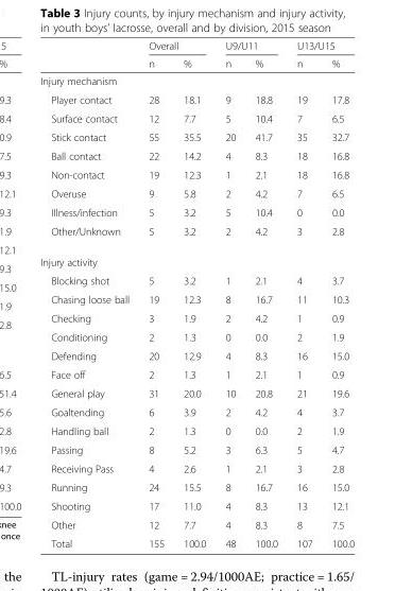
<table><thead><tr><td rowspan="2"></td><td colspan="2">Overall</td><td colspan="2">U9/U11</td><td colspan="2">U13/U15</td></tr><tr><td>n</td><td>%</td><td>n</td><td>%</td><td>n</td><td>%</td></tr></thead><tbody><tr><td colspan="7">Injury mechanism</td></tr><tr><td>Player contact</td><td>28</td><td>18.1</td><td>9</td><td>18.8</td><td>19</td><td>17.8</td></tr><tr><td>Surface contact</td><td>12</td><td>7.7</td><td>5</td><td>10.4</td><td>7</td><td>6.5</td></tr><tr><td>Stick contact</td><td>55</td><td>35.5</td><td>20</td><td>41.7</td><td>35</td><td>32.7</td></tr><tr><td>Ball contact</td><td>22</td><td>14.2</td><td>4</td><td>8.3</td><td>18</td><td>16.8</td></tr><tr><td>Non-contact</td><td>19</td><td>12.3</td><td>1</td><td>2.1</td><td>18</td><td>16.8</td></tr><tr><td>Overuse</td><td>9</td><td>5.8</td><td>2</td><td>4.2</td><td>7</td><td>6.5</td></tr><tr><td>Illness/infection</td><td>5</td><td>3.2</td><td>5</td><td>10.4</td><td>0</td><td>0.0</td></tr><tr><td>Other/Unknown</td><td>5</td><td>3.2</td><td>2</td><td>4.2</td><td>3</td><td>2.8</td></tr><tr><td colspan="7">Injury activity</td></tr><tr><td>Blocking shot</td><td>5</td><td>3.2</td><td>1</td><td>2.1</td><td>4</td><td>3.7</td></tr><tr><td>Chasing loose ball</td><td>19</td><td>12.3</td><td>8</td><td>16.7</td><td>11</td><td>10.3</td></tr><tr><td>Checking</td><td>3</td><td>1.9</td><td>2</td><td>4.2</td><td>1</td><td>0.9</td></tr><tr><td>Conditioning</td><td>2</td><td>1.3</td><td>0</td><td>0.0</td><td>2</td><td>1.9</td></tr><tr><td>Defending</td><td>20</td><td>12.9</td><td>4</td><td>8.3</td><td>16</td><td>15.0</td></tr><tr><td>Face off</td><td>2</td><td>1.3</td><td>1</td><td>2.1</td><td>1</td><td>0.9</td></tr><tr><td>General play</td><td>31</td><td>20.0</td><td>10</td><td>20.8</td><td>21</td><td>19.6</td></tr><tr><td>Goaltending</td><td>6</td><td>3.9</td><td>2</td><td>4.2</td><td>4</td><td>3.7</td></tr><tr><td>Handling ball</td><td>2</td><td>1.3</td><td>0</td><td>0.0</td><td>2</td><td>1.9</td></tr><tr><td>Passing</td><td>8</td><td>5.2</td><td>3</td><td>6.3</td><td>5</td><td>4.7</td></tr><tr><td>Receiving Pass</td><td>4</td><td>2.6</td><td>1</td><td>2.1</td><td>3</td><td>2.8</td></tr><tr><td>Running</td><td>24</td><td>15.5</td><td>8</td><td>16.7</td><td>16</td><td>15.0</td></tr><tr><td>Shooting</td><td>17</td><td>11.0</td><td>4</td><td>8.3</td><td>13</td><td>12.1</td></tr><tr><td>Other</td><td>12</td><td>7.7</td><td>4</td><td>8.3</td><td>8</td><td>7.5</td></tr><tr><td>Total</td><td>155</td><td>100.0</td><td>48</td><td>100.0</td><td>107</td><td>100.0</td></tr></tbody></table>